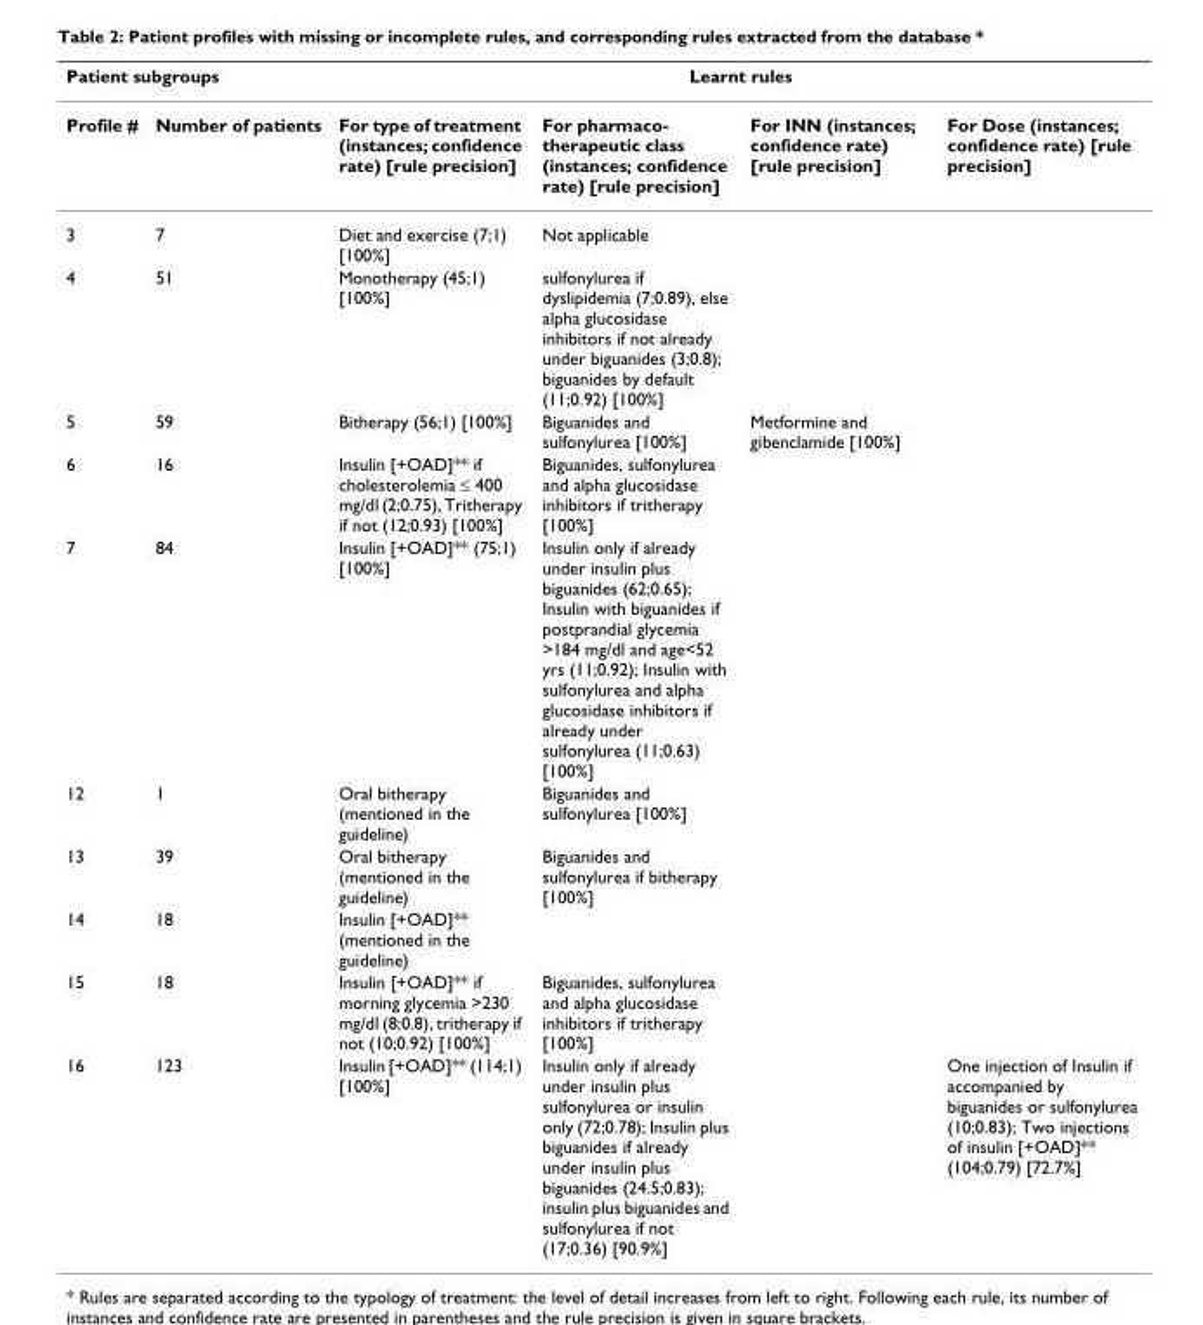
<table><thead><tr><td colspan="2">Patient subgroups</td><td colspan="4">Learnt rules</td></tr><tr><td>Profile #</td><td>Number of patients</td><td>For type of treatment (instances; confidence rate) [rule precision]</td><td>For pharmaco- therapeutic class (instances; confidence rate) [rule precision]</td><td>For INN (instances; confidence rate) [rule precision]</td><td>For Dose (instances; confidence rate) [rule precision]</td></tr></thead><tbody><tr><td>3</td><td>7</td><td>Diet and exercise (7;1) [100%]</td><td>Not applicable</td><td></td><td></td></tr><tr><td>4</td><td>51</td><td>Monotherapy (45;1) [100%]</td><td>sulfonylurea if dyslipidemia (7;0.89), else alpha glucosidase inhibitors if not already under biguanides (3;0.8); biguanides by default (11;0.92) [100%]</td><td></td><td></td></tr><tr><td>5</td><td>59</td><td>Bitherapy (56;1) [100%]</td><td>Biguanides and sulfonylurea [100%]</td><td>Metformine and gibenclamide [100%]</td><td></td></tr><tr><td>6</td><td>16</td><td>Insulin [+OAD]** if cholesterolemia ≤ 400 mg/dl (2;0.75), Tritherapy if not (12;0.93) [100%]</td><td>Biguanides, sulfonylurea and alpha glucosidase inhibitors if tritherapy [100%]</td><td></td><td></td></tr><tr><td>7</td><td>84</td><td>Insulin [+OAD]** (75;1) [100%]</td><td>Insulin only if already under insulin plus biguanides (62;0.65); Insulin with biguanides if postprandial glycemia &gt;184 mg/dl and age&lt;52 yrs (11;0.92); Insulin with sulfonylurea and alpha glucosidase inhibitors if already under sulfonylurea (11;0.63) [100%]</td><td></td><td></td></tr><tr><td>12</td><td>1</td><td>Oral bitherapy (mentioned in the guideline)</td><td>Biguanides and sulfonylurea [100%]</td><td></td><td></td></tr><tr><td>13</td><td>39</td><td>Oral bitherapy (mentioned in the guideline)</td><td>Biguanides and sulfonylurea if bitherapy [100%]</td><td></td><td></td></tr><tr><td>14</td><td>18</td><td>Insulin [+OAD]** (mentioned in the guideline)</td><td></td><td></td><td></td></tr><tr><td>15</td><td>18</td><td>Insulin [+OAD]** if morning glycemia &gt;230 mg/dl (8;0.8), tritherapy if not (10;0.92) [100%]</td><td>Biguanides, sulfonylurea and alpha glucosidase inhibitors if tritherapy [100%]</td><td></td><td></td></tr><tr><td>16</td><td>123</td><td>Insulin [+OAD]** (114;1) [100%]</td><td>Insulin only if already under insulin plus sulfonylurea or insulin only (72;0.78); Insulin plus biguanides if already under insulin plus biguanides (24.5;0.83); insulin plus biguanides and sulfonylurea if not (17;0.36) [90.9%]</td><td></td><td>One injection of Insulin if accompanied by biguanides or sulfonylurea (10;0.83); Two injections of insulin [+OAD]** (104;0.79) [72.7%]</td></tr></tbody></table>